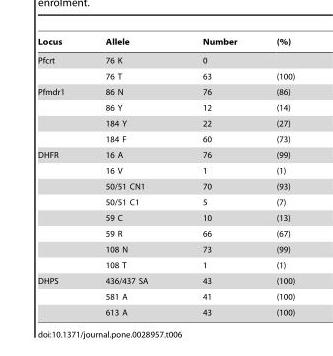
<table><thead><tr><td>Locus</td><td>Allele</td><td>Number</td><td>(%)</td></tr></thead><tbody><tr><td rowspan="2">Pfcrt</td><td>76 K</td><td>0</td><td></td></tr><tr><td>76 T</td><td>63</td><td>(100)</td></tr><tr><td rowspan="4">Pfmdr1</td><td>86 N</td><td>76</td><td>(86)</td></tr><tr><td>86 Y</td><td>12</td><td>(14)</td></tr><tr><td>184 Y</td><td>22</td><td>(27)</td></tr><tr><td>184 F</td><td>60</td><td>(73)</td></tr><tr><td rowspan="8">DHFR</td><td>16 A</td><td>76</td><td>(99)</td></tr><tr><td>16 V</td><td>1</td><td>(1)</td></tr><tr><td>50/51 CN1</td><td>70</td><td>(93)</td></tr><tr><td>50/51 C1</td><td>5</td><td>(7)</td></tr><tr><td>59 C</td><td>10</td><td>(13)</td></tr><tr><td>59 R</td><td>66</td><td>(67)</td></tr><tr><td>108 N</td><td>73</td><td>(99)</td></tr><tr><td>108 T</td><td>1</td><td>(1)</td></tr><tr><td rowspan="3">DHPS</td><td>436/437 SA</td><td>43</td><td>(100)</td></tr><tr><td>581 A</td><td>41</td><td>(100)</td></tr><tr><td>613 A</td><td>43</td><td>(100)</td></tr></tbody></table>